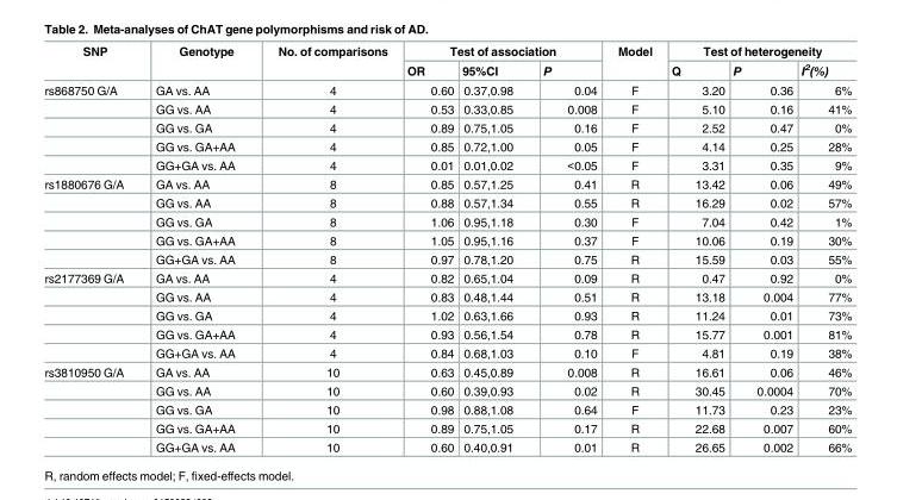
<table><thead><tr><td rowspan="2">SNP</td><td rowspan="2">Genotype</td><td rowspan="2">No. of comparisons</td><td colspan="3">Test of association</td><td rowspan="2">Model</td><td colspan="3">Test of heterogeneity</td></tr><tr><td>OR</td><td>95%CI</td><td>P</td><td>Q</td><td>P</td><td>I<sup>2</sup>(%)</td></tr></thead><tbody><tr><td rowspan="5">rs868750 G/A</td><td>GA vs. AA</td><td>4</td><td>0.60</td><td>0.37,0.98</td><td>0.04</td><td>F</td><td>3.20</td><td>0.36</td><td>6%</td></tr><tr><td>GG vs. AA</td><td>4</td><td>0.53</td><td>0.33,0.85</td><td>0.008</td><td>F</td><td>5.10</td><td>0.16</td><td>41%</td></tr><tr><td>GG vs. GA</td><td>4</td><td>0.89</td><td>0.75,1.05</td><td>0.16</td><td>F</td><td>2.52</td><td>0.47</td><td>0%</td></tr><tr><td>GG vs. GA+AA</td><td>4</td><td>0.85</td><td>0.72,1.00</td><td>0.05</td><td>F</td><td>4.14</td><td>0.25</td><td>28%</td></tr><tr><td>GG+GA vs. AA</td><td>4</td><td>0.01</td><td>0.01,0.02</td><td>&lt;0.05</td><td>F</td><td>3.31</td><td>0.35</td><td>9%</td></tr><tr><td rowspan="5">rs1880676 G/A</td><td>GA vs. AA</td><td>8</td><td>0.85</td><td>0.57,1.25</td><td>0.41</td><td>R</td><td>13.42</td><td>0.06</td><td>49%</td></tr><tr><td>GG vs. AA</td><td>8</td><td>0.88</td><td>0.57,1.34</td><td>0.55</td><td>R</td><td>16.29</td><td>0.02</td><td>57%</td></tr><tr><td>GG vs. GA</td><td>8</td><td>1.06</td><td>0.95,1.18</td><td>0.30</td><td>F</td><td>7.04</td><td>0.42</td><td>1%</td></tr><tr><td>GG vs. GA+AA</td><td>8</td><td>1.05</td><td>0.95,1.16</td><td>0.37</td><td>F</td><td>10.06</td><td>0.19</td><td>30%</td></tr><tr><td>GG+GA vs. AA</td><td>8</td><td>0.97</td><td>0.78,1.20</td><td>0.75</td><td>R</td><td>15.59</td><td>0.03</td><td>55%</td></tr><tr><td rowspan="5">rs2177369 G/A</td><td>GA vs. AA</td><td>4</td><td>0.82</td><td>0.65,1.04</td><td>0.09</td><td>R</td><td>0.47</td><td>0.92</td><td>0%</td></tr><tr><td>GG vs. AA</td><td>4</td><td>0.83</td><td>0.48,1.44</td><td>0.51</td><td>R</td><td>13.18</td><td>0.004</td><td>77%</td></tr><tr><td>GG vs. GA</td><td>4</td><td>1.02</td><td>0.63,1.66</td><td>0.93</td><td>R</td><td>11.24</td><td>0.01</td><td>73%</td></tr><tr><td>GG vs. GA+AA</td><td>4</td><td>0.93</td><td>0.56,1.54</td><td>0.78</td><td>R</td><td>15.77</td><td>0.001</td><td>81%</td></tr><tr><td>GG+GA vs. AA</td><td>4</td><td>0.84</td><td>0.68,1.03</td><td>0.10</td><td>F</td><td>4.81</td><td>0.19</td><td>38%</td></tr><tr><td rowspan="5">rs3810950 G/A</td><td>GA vs. AA</td><td>10</td><td>0.63</td><td>0.45,0.89</td><td>0.008</td><td>R</td><td>16.61</td><td>0.06</td><td>46%</td></tr><tr><td>GG vs. AA</td><td>10</td><td>0.60</td><td>0.39,0.93</td><td>0.02</td><td>R</td><td>30.45</td><td>0.0004</td><td>70%</td></tr><tr><td>GG vs. GA</td><td>10</td><td>0.98</td><td>0.88,1.08</td><td>0.64</td><td>F</td><td>11.73</td><td>0.23</td><td>23%</td></tr><tr><td>GG vs. GA+AA</td><td>10</td><td>0.89</td><td>0.75,1.05</td><td>0.17</td><td>R</td><td>22.68</td><td>0.007</td><td>60%</td></tr><tr><td>GG+GA vs. AA</td><td>10</td><td>0.60</td><td>0.40,0.91</td><td>0.01</td><td>R</td><td>26.65</td><td>0.002</td><td>66%</td></tr></tbody></table>